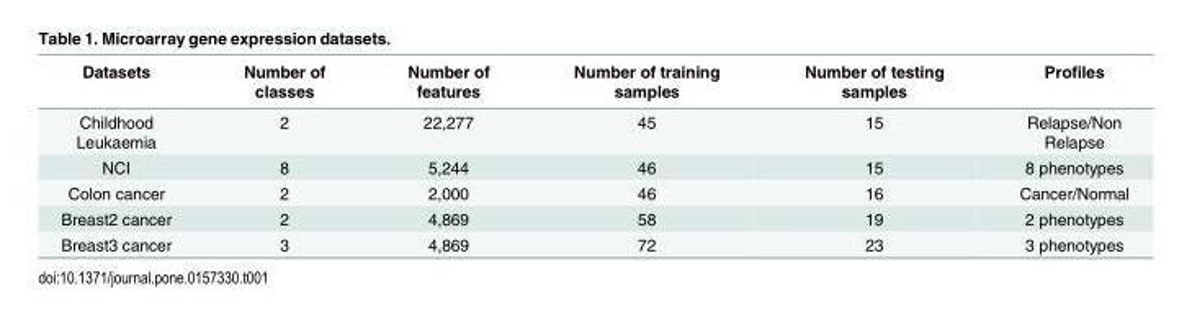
<table><thead><tr><td>Datasets</td><td>Number of classes</td><td>Number of features</td><td>Number of training samples</td><td>Number of testing samples</td><td>Profiles</td></tr></thead><tbody><tr><td>Childhood Leukaemia</td><td>2</td><td>22,277</td><td>45</td><td>15</td><td>Relapse/Non Relapse</td></tr><tr><td>NCI</td><td>8</td><td>5,244</td><td>46</td><td>15</td><td>8 phenotypes</td></tr><tr><td>Colon cancer</td><td>2</td><td>2,000</td><td>46</td><td>16</td><td>Cancer/Normal</td></tr><tr><td>Breast2 cancer</td><td>2</td><td>4,869</td><td>58</td><td>19</td><td>2 phenotypes</td></tr><tr><td>Breast3 cancer</td><td>3</td><td>4,869</td><td>72</td><td>23</td><td>3 phenotypes</td></tr></tbody></table>